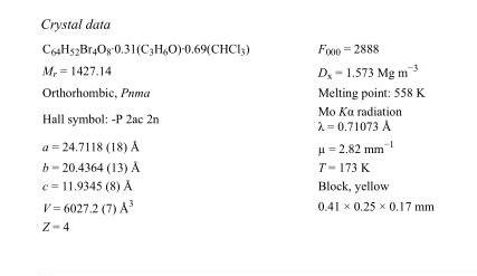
<table><tbody><tr><td>C<sub>64</sub>H<sub>52</sub>Br<sub>4</sub>O<sub>8</sub>·0.31(C<sub>3</sub>H<sub>6</sub>O)·0.69(CHCl<sub>3</sub>)</td><td>F000 = 2888</td></tr><tr><td>M<sub>r</sub> = 1427.14</td><td>D<sub>x</sub> = 1.573 Mg m<sup>−3</sup></td></tr><tr><td>Orthorhombic, Pnma</td><td>Melting point: 558 K</td></tr><tr><td>Hall symbol: -P 2ac 2n</td><td>Mo Kα radiation λ = 0.71073 Å</td></tr><tr><td>a = 24.7118 (18) Å</td><td>µ = 2.82 mm<sup>−1</sup></td></tr><tr><td>b = 20.4364 (13) Å</td><td>T = 173 K</td></tr><tr><td>c = 11.9345 (8) Å</td><td>Block, yellow</td></tr><tr><td>V = 6027.2 (7) Å<sup>3</sup></td><td>0.41 × 0.25 × 0.17 mm</td></tr><tr><td>Z = 4</td><td></td></tr></tbody></table>